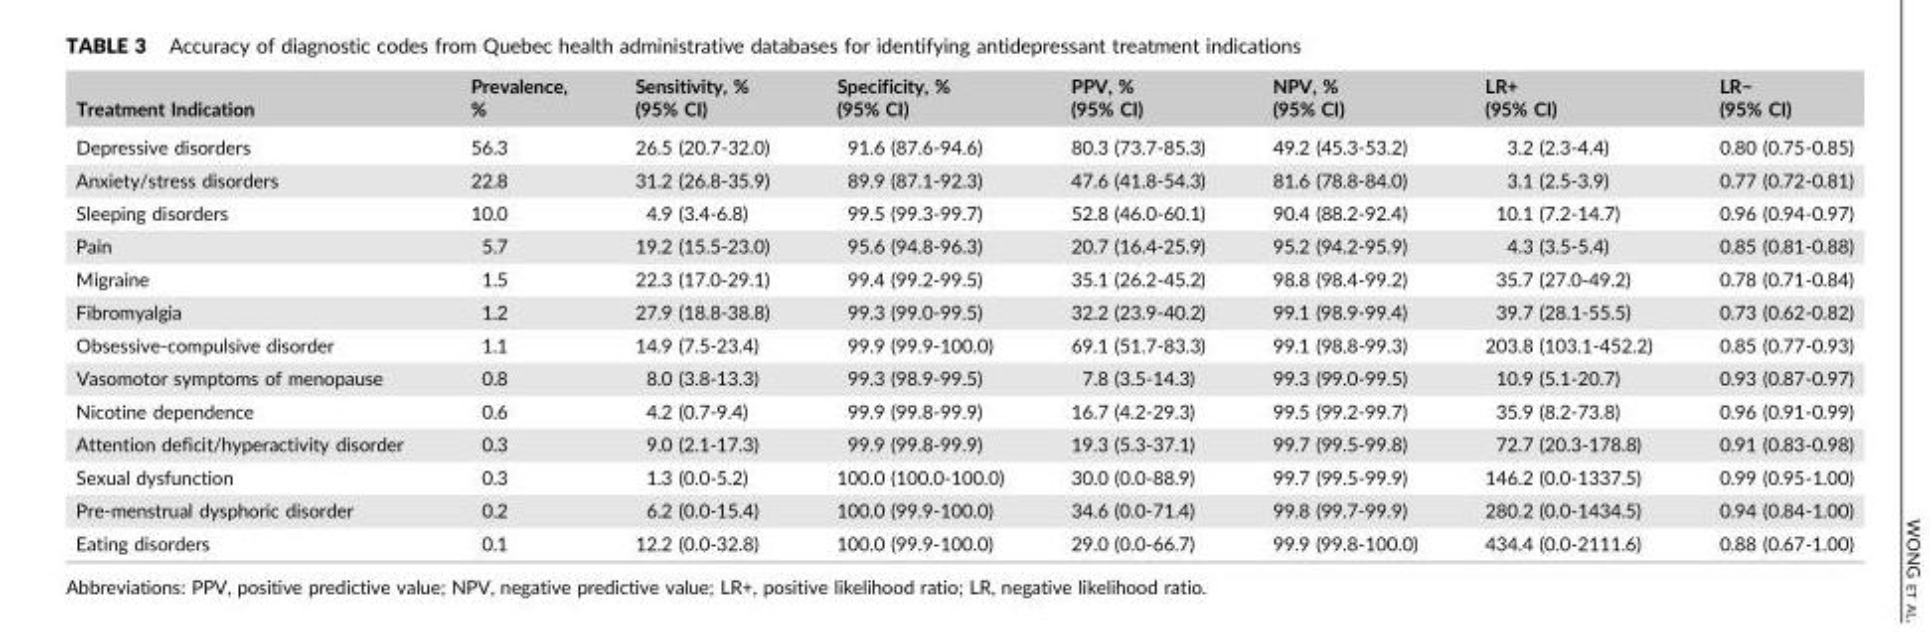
<table><thead><tr><td>Treatment Indication</td><td>Prevalence, %</td><td>Sensitivity, % (95% CI)</td><td>Specificity, % (95% CI)</td><td>PPV, % (95% CI)</td><td>NPV, % (95% CI)</td><td>LR+ (95% CI)</td><td>LR− (95% CI)</td></tr></thead><tbody><tr><td>Depressive disorders</td><td>56.3</td><td>26.5 (20.7‐32.0)</td><td>91.6 (87.6‐94.6)</td><td>80.3 (73.7‐85.3)</td><td>49.2 (45.3‐53.2)</td><td>3.2 (2.3‐4.4)</td><td>0.80 (0.75‐0.85)</td></tr><tr><td>Anxiety/stress disorders</td><td>22.8</td><td>31.2 (26.8‐35.9)</td><td>89.9 (87.1‐92.3)</td><td>47.6 (41.8‐54.3)</td><td>81.6 (78.8‐84.0)</td><td>3.1 (2.5‐3.9)</td><td>0.77 (0.72‐0.81)</td></tr><tr><td>Sleeping disorders</td><td>10.0</td><td>4.9 (3.4‐6.8)</td><td>99.5 (99.3‐99.7)</td><td>52.8 (46.0‐60.1)</td><td>90.4 (88.2‐92.4)</td><td>10.1 (7.2‐14.7)</td><td>0.96 (0.94‐0.97)</td></tr><tr><td>Pain</td><td>5.7</td><td>19.2 (15.5‐23.0)</td><td>95.6 (94.8‐96.3)</td><td>20.7 (16.4‐25.9)</td><td>95.2 (94.2‐95.9)</td><td>4.3 (3.5‐5.4)</td><td>0.85 (0.81‐0.88)</td></tr><tr><td>Migraine</td><td>1.5</td><td>22.3 (17.0‐29.1)</td><td>99.4 (99.2‐99.5)</td><td>35.1 (26.2‐45.2)</td><td>98.8 (98.4‐99.2)</td><td>35.7 (27.0‐49.2)</td><td>0.78 (0.71‐0.84)</td></tr><tr><td>Fibromyalgia</td><td>1.2</td><td>27.9 (18.8‐38.8)</td><td>99.3 (99.0‐99.5)</td><td>32.2 (23.9‐40.2)</td><td>99.1 (98.9‐99.4)</td><td>39.7 (28.1‐55.5)</td><td>0.73 (0.62‐0.82)</td></tr><tr><td>Obsessive‐compulsive disorder</td><td>1.1</td><td>14.9 (7.5‐23.4)</td><td>99.9 (99.9‐100.0)</td><td>69.1 (51.7‐83.3)</td><td>99.1 (98.8‐99.3)</td><td>203.8 (103.1‐452.2)</td><td>0.85 (0.77‐0.93)</td></tr><tr><td>Vasomotor symptoms of menopause</td><td>0.8</td><td>8.0 (3.8‐13.3)</td><td>99.3 (98.9‐99.5)</td><td>7.8 (3.5‐14.3)</td><td>99.3 (99.0‐99.5)</td><td>10.9 (5.1‐20.7)</td><td>0.93 (0.87‐0.97)</td></tr><tr><td>Nicotine dependence</td><td>0.6</td><td>4.2 (0.7‐9.4)</td><td>99.9 (99.8‐99.9)</td><td>16.7 (4.2‐29.3)</td><td>99.5 (99.2‐99.7)</td><td>35.9 (8.2‐73.8)</td><td>0.96 (0.91‐0.99)</td></tr><tr><td>Attention deficit/hyperactivity disorder</td><td>0.3</td><td>9.0 (2.1‐17.3)</td><td>99.9 (99.8‐99.9)</td><td>19.3 (5.3‐37.1)</td><td>99.7 (99.5‐99.8)</td><td>72.7 (20.3‐178.8)</td><td>0.91 (0.83‐0.98)</td></tr><tr><td>Sexual dysfunction</td><td>0.3</td><td>1.3 (0.0‐5.2)</td><td>100.0 (100.0‐100.0)</td><td>30.0 (0.0‐88.9)</td><td>99.7 (99.5‐99.9)</td><td>146.2 (0.0‐1337.5)</td><td>0.99 (0.95‐1.00)</td></tr><tr><td>Pre‐menstrual dysphoric disorder</td><td>0.2</td><td>6.2 (0.0‐15.4)</td><td>100.0 (99.9‐100.0)</td><td>34.6 (0.0‐71.4)</td><td>99.8 (99.7‐99.9)</td><td>280.2 (0.0‐1434.5)</td><td>0.94 (0.84‐1.00)</td></tr><tr><td>Eating disorders</td><td>0.1</td><td>12.2 (0.0‐32.8)</td><td>100.0 (99.9‐100.0)</td><td>29.0 (0.0‐66.7)</td><td>99.9 (99.8‐100.0)</td><td>434.4 (0.0‐2111.6)</td><td>0.88 (0.67‐1.00)</td></tr></tbody></table>